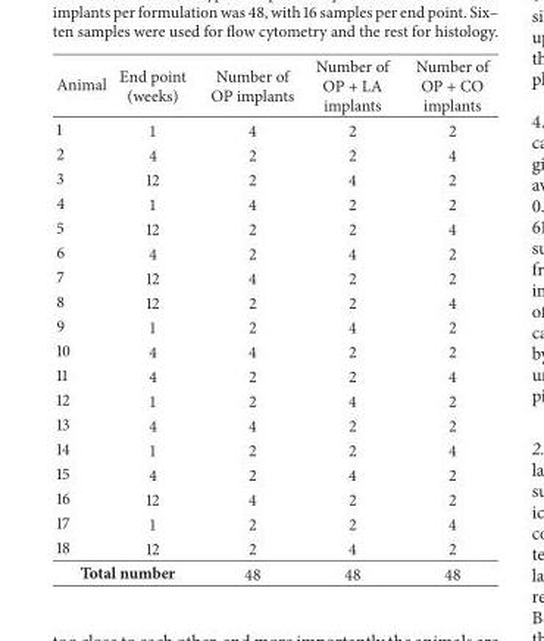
<table><thead><tr><td>Animal</td><td>End point (weeks)</td><td>Number of OP implants</td><td>Number of OP + LA implants</td><td>Number of OP + CO implants</td></tr></thead><tbody><tr><td>1</td><td>1</td><td>4</td><td>2</td><td>2</td></tr><tr><td>2</td><td>4</td><td>2</td><td>2</td><td>4</td></tr><tr><td>3</td><td>12</td><td>2</td><td>4</td><td>2</td></tr><tr><td>4</td><td>1</td><td>4</td><td>2</td><td>2</td></tr><tr><td>5</td><td>12</td><td>2</td><td>2</td><td>4</td></tr><tr><td>6</td><td>4</td><td>2</td><td>4</td><td>2</td></tr><tr><td>7</td><td>12</td><td>4</td><td>2</td><td>2</td></tr><tr><td>8</td><td>12</td><td>2</td><td>2</td><td>4</td></tr><tr><td>9</td><td>1</td><td>2</td><td>4</td><td>2</td></tr><tr><td>10</td><td>4</td><td>4</td><td>2</td><td>2</td></tr><tr><td>11</td><td>4</td><td>2</td><td>2</td><td>4</td></tr><tr><td>12</td><td>1</td><td>2</td><td>4</td><td>2</td></tr><tr><td>13</td><td>4</td><td>4</td><td>2</td><td>2</td></tr><tr><td>14</td><td>1</td><td>2</td><td>2</td><td>4</td></tr><tr><td>15</td><td>4</td><td>2</td><td>4</td><td>2</td></tr><tr><td>16</td><td>12</td><td>4</td><td>2</td><td>2</td></tr><tr><td>17</td><td>1</td><td>2</td><td>2</td><td>4</td></tr><tr><td>18</td><td>12</td><td>2</td><td>4</td><td>2</td></tr><tr><td colspan="2">Total number</td><td>48</td><td>48</td><td>48</td></tr></tbody></table>